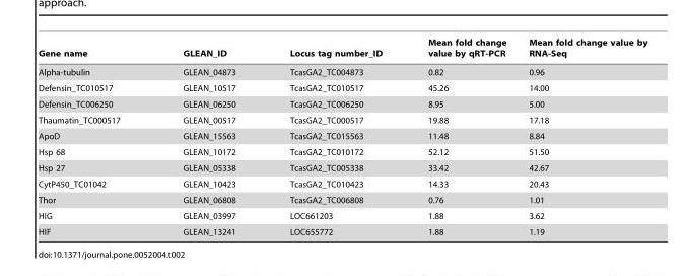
<table><thead><tr><td>Gene name</td><td>GLEAN_ID</td><td>Locus tag number_ID</td><td>Mean fold change value by qRT-PCR</td><td>Mean fold change value by RNA-Seq</td></tr></thead><tbody><tr><td>Alpha-tubulin</td><td>GLEAN_04873</td><td>TcasGA2_TC004873</td><td>0.82</td><td>0.96</td></tr><tr><td>Defensin_TC010517</td><td>GLEAN_10517</td><td>TcasGA2_TC010517</td><td>45.26</td><td>14.00</td></tr><tr><td>Defensin_TC006250</td><td>GLEAN_06250</td><td>TcasGA2_TC006250</td><td>8.95</td><td>5.00</td></tr><tr><td>Thaumatin_TC000517</td><td>GLEAN_00517</td><td>TcasGA2_TC000517</td><td>19.88</td><td>17.18</td></tr><tr><td>ApoD</td><td>GLEAN_15563</td><td>TcasGA2_TC015563</td><td>11.48</td><td>8.84</td></tr><tr><td>Hsp 68</td><td>GLEAN_10172</td><td>TcasGA2_TC010172</td><td>52.12</td><td>51.50</td></tr><tr><td>Hsp 27</td><td>GLEAN_05338</td><td>TcasGA2_TC005338</td><td>33.42</td><td>42.67</td></tr><tr><td>CytP450_TC01042</td><td>GLEAN_10423</td><td>TcasGA2_TC010423</td><td>14.33</td><td>20.43</td></tr><tr><td>Thor</td><td>GLEAN_06808</td><td>TcasGA2_TC006808</td><td>0.76</td><td>1.01</td></tr><tr><td>HIG</td><td>GLEAN_03997</td><td>LOC661203</td><td>1.88</td><td>3.62</td></tr><tr><td>HIF</td><td>GLEAN_13241</td><td>LOC655772</td><td>1.88</td><td>1.19</td></tr></tbody></table>